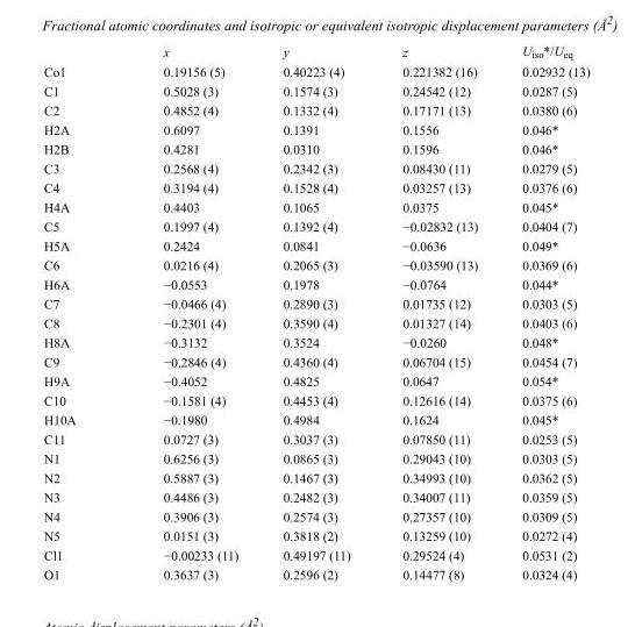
<table><thead><tr><td></td><td>x</td><td>y</td><td>z</td><td>U<sub>iso</sub>*/U<sub>eq</sub></td></tr></thead><tbody><tr><td>Co1</td><td>0.19156 (5)</td><td>0.40223 (4)</td><td>0.221382 (16)</td><td>0.02932 (13)</td></tr><tr><td>C1</td><td>0.5028 (3)</td><td>0.1574 (3)</td><td>0.24542 (12)</td><td>0.0287 (5)</td></tr><tr><td>C2</td><td>0.4852 (4)</td><td>0.1332 (4)</td><td>0.17171 (13)</td><td>0.0380 (6)</td></tr><tr><td>H2A</td><td>0.6097</td><td>0.1391</td><td>0.1556</td><td>0.046*</td></tr><tr><td>H2B</td><td>0.4281</td><td>0.0310</td><td>0.1596</td><td>0.046*</td></tr><tr><td>C3</td><td>0.2568 (4)</td><td>0.2342 (3)</td><td>0.08430 (11)</td><td>0.0279 (5)</td></tr><tr><td>C4</td><td>0.3194 (4)</td><td>0.1528 (4)</td><td>0.03257 (13)</td><td>0.0376 (6)</td></tr><tr><td>H4A</td><td>0.4403</td><td>0.1065</td><td>0.0375</td><td>0.045*</td></tr><tr><td>C5</td><td>0.1997 (4)</td><td>0.1392 (4)</td><td>−0.02832 (13)</td><td>0.0404 (7)</td></tr><tr><td>H5A</td><td>0.2424</td><td>0.0841</td><td>−0.0636</td><td>0.049*</td></tr><tr><td>C6</td><td>0.0216 (4)</td><td>0.2065 (3)</td><td>−0.03590 (13)</td><td>0.0369 (6)</td></tr><tr><td>H6A</td><td>−0.0553</td><td>0.1978</td><td>−0.0764</td><td>0.044*</td></tr><tr><td>C7</td><td>−0.0466 (4)</td><td>0.2890 (3)</td><td>0.01735 (12)</td><td>0.0303 (5)</td></tr><tr><td>C8</td><td>−0.2301 (4)</td><td>0.3590 (4)</td><td>0.01327 (14)</td><td>0.0403 (6)</td></tr><tr><td>H8A</td><td>−0.3132</td><td>0.3524</td><td>−0.0260</td><td>0.048*</td></tr><tr><td>C9</td><td>−0.2846 (4)</td><td>0.4360 (4)</td><td>0.06704 (15)</td><td>0.0454 (7)</td></tr><tr><td>H9A</td><td>−0.4052</td><td>0.4825</td><td>0.0647</td><td>0.054*</td></tr><tr><td>C10</td><td>−0.1581 (4)</td><td>0.4453 (4)</td><td>0.12616 (14)</td><td>0.0375 (6)</td></tr><tr><td>H10A</td><td>−0.1980</td><td>0.4984</td><td>0.1624</td><td>0.045*</td></tr><tr><td>C11</td><td>0.0727 (3)</td><td>0.3037 (3)</td><td>0.07850 (11)</td><td>0.0253 (5)</td></tr><tr><td>N1</td><td>0.6256 (3)</td><td>0.0865 (3)</td><td>0.29043 (10)</td><td>0.0303 (5)</td></tr><tr><td>N2</td><td>0.5887 (3)</td><td>0.1467 (3)</td><td>0.34993 (10)</td><td>0.0362 (5)</td></tr><tr><td>N3</td><td>0.4486 (3)</td><td>0.2482 (3)</td><td>0.34007 (11)</td><td>0.0359 (5)</td></tr><tr><td>N4</td><td>0.3906 (3)</td><td>0.2574 (3)</td><td>0.27357 (10)</td><td>0.0309 (5)</td></tr><tr><td>N5</td><td>0.0151 (3)</td><td>0.3818 (2)</td><td>0.13259 (10)</td><td>0.0272 (4)</td></tr><tr><td>Cl1</td><td>−0.00233 (11)</td><td>0.49197 (11)</td><td>0.29524 (4)</td><td>0.0531 (2)</td></tr><tr><td>O1</td><td>0.3637 (3)</td><td>0.2596 (2)</td><td>0.14477 (8)</td><td>0.0324 (4)</td></tr></tbody></table>